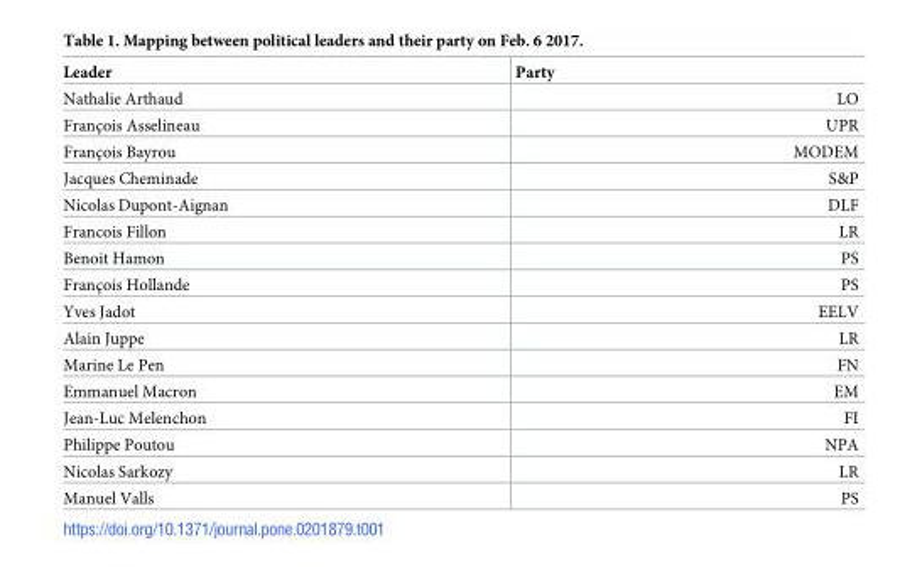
<table><thead><tr><td>Leader</td><td>Party</td></tr></thead><tbody><tr><td>Nathalie Arthaud</td><td>LO</td></tr><tr><td>Franc¸ois Asselineau</td><td>UPR</td></tr><tr><td>Franc¸ois Bayrou</td><td>MODEM</td></tr><tr><td>Jacques Cheminade</td><td>S&amp;P</td></tr><tr><td>Nicolas Dupont-Aignan</td><td>DLF</td></tr><tr><td>Francois Fillon</td><td>LR</td></tr><tr><td>Benoit Hamon</td><td>PS</td></tr><tr><td>Franc¸ois Hollande</td><td>PS</td></tr><tr><td>Yves Jadot</td><td>EELV</td></tr><tr><td>Alain Juppe</td><td>LR</td></tr><tr><td>Marine Le Pen</td><td>FN</td></tr><tr><td>Emmanuel Macron</td><td>EM</td></tr><tr><td>Jean-Luc Melenchon</td><td>FI</td></tr><tr><td>Philippe Poutou</td><td>NPA</td></tr><tr><td>Nicolas Sarkozy</td><td>LR</td></tr><tr><td>Manuel Valls</td><td>PS</td></tr></tbody></table>